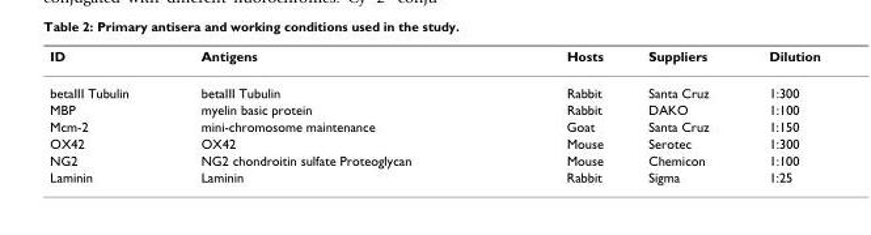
<table><thead><tr><td>ID</td><td>Antigens</td><td>Hosts</td><td>Suppliers</td><td>Dilution</td></tr></thead><tbody><tr><td>betaIII Tubulin</td><td>betaIII Tubulin</td><td>Rabbit</td><td>Santa Cruz</td><td>1:300</td></tr><tr><td>MBP</td><td>myelin basic protein</td><td>Rabbit</td><td>DAKO</td><td>1:100</td></tr><tr><td>Mcm-2</td><td>mini-chromosome maintenance</td><td>Goat</td><td>Santa Cruz</td><td>1:150</td></tr><tr><td>OX42</td><td>OX42</td><td>Mouse</td><td>Serotec</td><td>1:300</td></tr><tr><td>NG2</td><td>NG2 chondroitin sulfate Proteoglycan</td><td>Mouse</td><td>Chemicon</td><td>1:100</td></tr><tr><td>Laminin</td><td>Laminin</td><td>Rabbit</td><td>Sigma</td><td>1:25</td></tr></tbody></table>